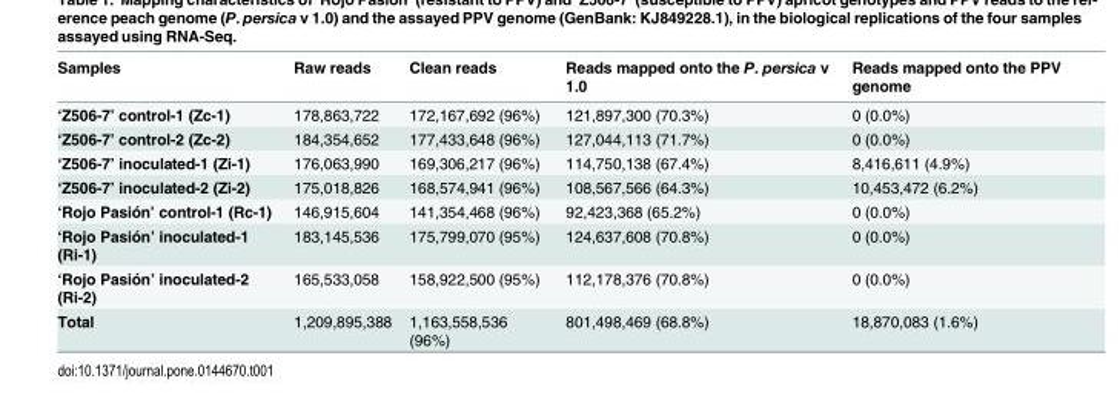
<table><thead><tr><td>Samples</td><td>Raw reads</td><td>Clean reads</td><td>Reads mapped onto the P. persica v 1.0</td><td>Reads mapped onto the PPV genome</td></tr></thead><tbody><tr><td>‘Z506-7’ control-1 (Zc-1)</td><td>178,863,722</td><td>172,167,692 (96%)</td><td>121,897,300 (70.3%)</td><td>0 (0.0%)</td></tr><tr><td>‘Z506-7’ control-2 (Zc-2)</td><td>184,354,652</td><td>177,433,648 (96%)</td><td>127,044,113 (71.7%)</td><td>0 (0.0%)</td></tr><tr><td>‘Z506-7’ inoculated-1 (Zi-1)</td><td>176,063,990</td><td>169,306,217 (96%)</td><td>114,750,138 (67.4%)</td><td>8,416,611 (4.9%)</td></tr><tr><td>‘Z506-7’ inoculated-2 (Zi-2)</td><td>175,018,826</td><td>168,574,941 (96%)</td><td>108,567,566 (64.3%)</td><td>10,453,472 (6.2%)</td></tr><tr><td>‘Rojo Pasión’ control-1 (Rc-1)</td><td>146,915,604</td><td>141,354,468 (96%)</td><td>92,423,368 (65.2%)</td><td>0 (0.0%)</td></tr><tr><td>‘Rojo Pasión’ inoculated-1 (Ri-1)</td><td>183,145,536</td><td>175,799,070 (95%)</td><td>124,637,608 (70.8%)</td><td>0 (0.0%)</td></tr><tr><td>‘Rojo Pasión’ inoculated-2 (Ri-2)</td><td>165,533,058</td><td>158,922,500 (95%)</td><td>112,178,376 (70.8%)</td><td>0 (0.0%)</td></tr><tr><td>Total</td><td>1,209,895,388</td><td>1,163,558,536 (96%)</td><td>801,498,469 (68.8%)</td><td>18,870,083 (1.6%)</td></tr></tbody></table>